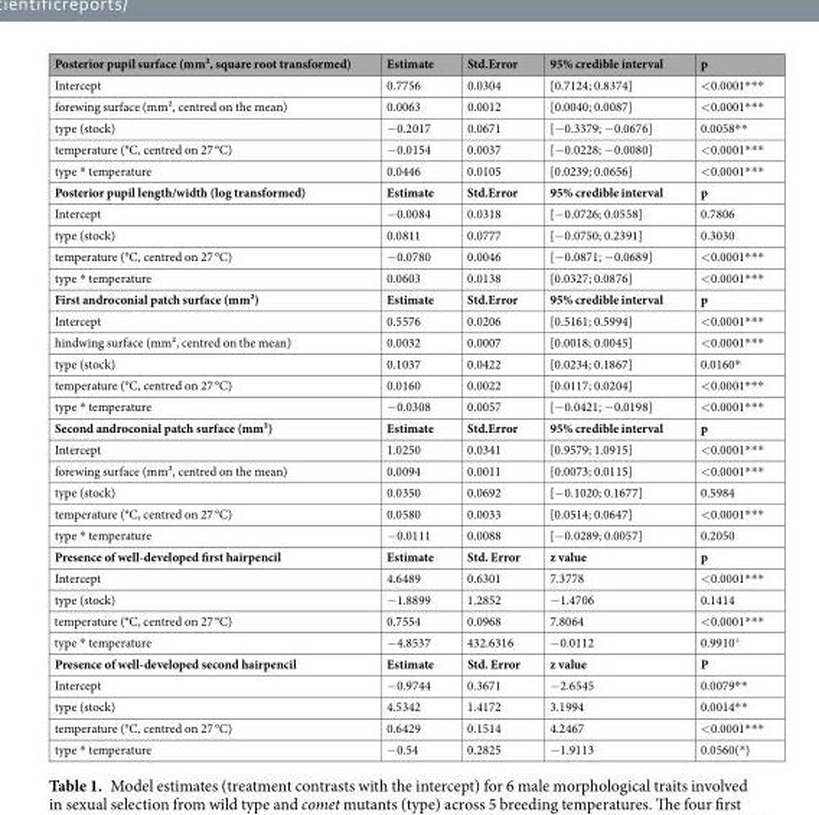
<table><thead><tr><td>Posterior pupil surface (mm², square root transformed)</td><td>Estimate</td><td>Std.Error</td><td>95% credible interval</td><td>p</td></tr></thead><tbody><tr><td>Intercept</td><td>0.7756</td><td>0.0304</td><td>[0.7124; 0.8374]</td><td>&lt;0.0001***</td></tr><tr><td>forewing surface (mm², centred on the mean)</td><td>0.0063</td><td>0.0012</td><td>[0.0040; 0.0087]</td><td>&lt;0.0001***</td></tr><tr><td>type (stock)</td><td>−0.2017</td><td>0.0671</td><td>[−0.3379; −0.0676]</td><td>0.0058**</td></tr><tr><td>temperature (°C, centred on 27 °C)</td><td>−0.0154</td><td>0.0037</td><td>[−0.0228; −0.0080]</td><td>&lt;0.0001***</td></tr><tr><td>type * temperature</td><td>0.0446</td><td>0.0105</td><td>[0.0239; 0.0656]</td><td>&lt;0.0001***</td></tr><tr><td>Posterior pupil length/width (log transformed)</td><td>Estimate</td><td>Std.Error</td><td>95% credible interval</td><td>p</td></tr><tr><td>Intercept</td><td>−0.0084</td><td>0.0318</td><td>[−0.0726; 0.0558]</td><td>0.7806</td></tr><tr><td>type (stock)</td><td>0.0811</td><td>0.0777</td><td>[−0.0750; 0.2391]</td><td>0.3030</td></tr><tr><td>temperature (°C, centred on 27 °C)</td><td>−0.0780</td><td>0.0046</td><td>[−0.0871; −0.0689]</td><td>&lt;0.0001***</td></tr><tr><td>type * temperature</td><td>0.0603</td><td>0.0138</td><td>[0.0327; 0.0876]</td><td>&lt;0.0001***</td></tr><tr><td>First androconial patch surface (mm²)</td><td>Estimate</td><td>Std.Error</td><td>95% credible interval</td><td>p</td></tr><tr><td>Intercept</td><td>0.5576</td><td>0.0206</td><td>[0.5161; 0.5994]</td><td>&lt;0.0001***</td></tr><tr><td>hindwing surface (mm², centred on the mean)</td><td>0.0032</td><td>0.0007</td><td>[0.0018; 0.0045]</td><td>&lt;0.0001***</td></tr><tr><td>type (stock)</td><td>0.1037</td><td>0.0422</td><td>[0.0234; 0.1867]</td><td>0.0160*</td></tr><tr><td>temperature (°C, centred on 27 °C)</td><td>0.0160</td><td>0.0022</td><td>[0.0117; 0.0204]</td><td>&lt;0.0001***</td></tr><tr><td>type * temperature</td><td>−0.0308</td><td>0.0057</td><td>[−0.0421; −0.0198]</td><td>&lt;0.0001***</td></tr><tr><td>Second androconial patch surface (mm²)</td><td>Estimate</td><td>Std.Error</td><td>95% credible interval</td><td>p</td></tr><tr><td>Intercept</td><td>1.0250</td><td>0.0341</td><td>[0.9579; 1.0915]</td><td>&lt;0.0001***</td></tr><tr><td>forewing surface (mm², centred on the mean)</td><td>0.0094</td><td>0.0011</td><td>[0.0073; 0.0115]</td><td>&lt;0.0001***</td></tr><tr><td>type (stock)</td><td>0.0350</td><td>0.0692</td><td>[−0.1020; 0.1677]</td><td>0.5984</td></tr><tr><td>temperature (°C, centred on 27 °C)</td><td>0.0580</td><td>0.0033</td><td>[0.0514; 0.0647]</td><td>&lt;0.0001***</td></tr><tr><td>type * temperature</td><td>−0.0111</td><td>0.0088</td><td>[−0.0289; 0.0057]</td><td>0.2050</td></tr><tr><td>Presence of well-developed first hairpencil</td><td>Estimate</td><td>Std. Error</td><td>z value</td><td>p</td></tr><tr><td>Intercept</td><td>4.6489</td><td>0.6301</td><td>7.3778</td><td>&lt;0.0001***</td></tr><tr><td>type (stock)</td><td>−1.8899</td><td>1.2852</td><td>−1.4706</td><td>0.1414</td></tr><tr><td>temperature (°C, centred on 27 °C)</td><td>0.7554</td><td>0.0968</td><td>7.8064</td><td>&lt;0.0001***</td></tr><tr><td>type * temperature</td><td>−4.8537</td><td>432.6316</td><td>−0.0112</td><td>0.9910<sup>+</sup></td></tr><tr><td>Presence of well-developed second hairpencil</td><td>Estimate</td><td>Std. Error</td><td>z value</td><td>P</td></tr><tr><td>Intercept</td><td>−0.9744</td><td>0.3671</td><td>−2.6545</td><td>0.0079**</td></tr><tr><td>type (stock)</td><td>4.5342</td><td>1.4172</td><td>3.1994</td><td>0.0014**</td></tr><tr><td>temperature (°C, centred on 27 °C)</td><td>0.6429</td><td>0.1514</td><td>4.2467</td><td>&lt;0.0001***</td></tr><tr><td>type * temperature</td><td>−0.54</td><td>0.2825</td><td>−1.9113</td><td>0.0560(*)</td></tr></tbody></table>